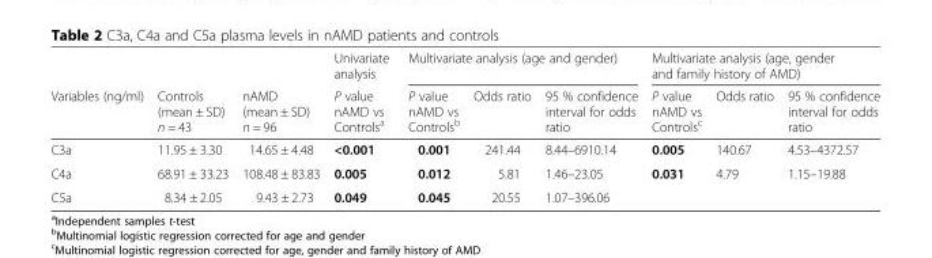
<table><thead><tr><td rowspan="2">Variables (ng/ml)</td><td rowspan="2">Controls (mean ± SD) n = 43</td><td rowspan="2">nAMD (mean ± SD) n = 96</td><td rowspan="2">Univariate analysis P value nAMD vs Controls<sup>a</sup></td><td colspan="3">Multivariate analysis (age and gender)</td><td colspan="3">Multivariate analysis (age, gender and family history of AMD)</td></tr><tr><td>P value nAMD vs Controls<sup>b</sup></td><td>Odds ratio</td><td>95 % confidence interval for odds ratio</td><td>P value nAMD vs Controls<sup>c</sup></td><td>Odds ratio</td><td>95 % confidence interval for odds ratio</td></tr></thead><tbody><tr><td>C3a</td><td>11.95 ± 3.30</td><td>14.65 ± 4.48</td><td>&lt;0.001</td><td>0.001</td><td>241.44</td><td>8.44–6910.14</td><td>0.005</td><td>140.67</td><td>4.53–4372.57</td></tr><tr><td>C4a</td><td>68.91 ± 33.23</td><td>108.48 ± 83.83</td><td>0.005</td><td>0.012</td><td>5.81</td><td>1.46–23.05</td><td>0.031</td><td>4.79</td><td>1.15–19.88</td></tr><tr><td>C5a</td><td>8.34 ± 2.05</td><td>9.43 ± 2.73</td><td>0.049</td><td>0.045</td><td>20.55</td><td>1.07–396.06</td><td></td><td></td><td></td></tr></tbody></table>